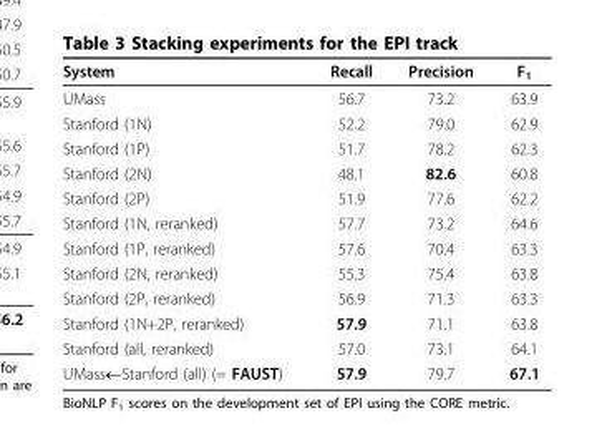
<table><thead><tr><td>System</td><td>Recall</td><td>Precision</td><td>F<sub>1</sub></td></tr></thead><tbody><tr><td>UMass</td><td>56.7</td><td>73.2</td><td>63.9</td></tr><tr><td>Stanford (1N)</td><td>52.2</td><td>79.0</td><td>62.9</td></tr><tr><td>Stanford (1P)</td><td>51.7</td><td>78.2</td><td>62.3</td></tr><tr><td>Stanford (2N)</td><td>48.1</td><td>82.6</td><td>60.8</td></tr><tr><td>Stanford (2P)</td><td>51.9</td><td>77.6</td><td>62.2</td></tr><tr><td>Stanford (1N, reranked)</td><td>57.7</td><td>73.2</td><td>64.6</td></tr><tr><td>Stanford (1P, reranked)</td><td>57.6</td><td>70.4</td><td>63.3</td></tr><tr><td>Stanford (2N, reranked)</td><td>55.3</td><td>75.4</td><td>63.8</td></tr><tr><td>Stanford (2P, reranked)</td><td>56.9</td><td>71.3</td><td>63.3</td></tr><tr><td>Stanford (1N+2P, reranked)</td><td>57.9</td><td>71.1</td><td>63.8</td></tr><tr><td>Stanford (all, reranked)</td><td>57.0</td><td>73.1</td><td>64.1</td></tr><tr><td>UMass¬Stanford (all) (= FAUST)</td><td>57.9</td><td>79.7</td><td>67.1</td></tr></tbody></table>